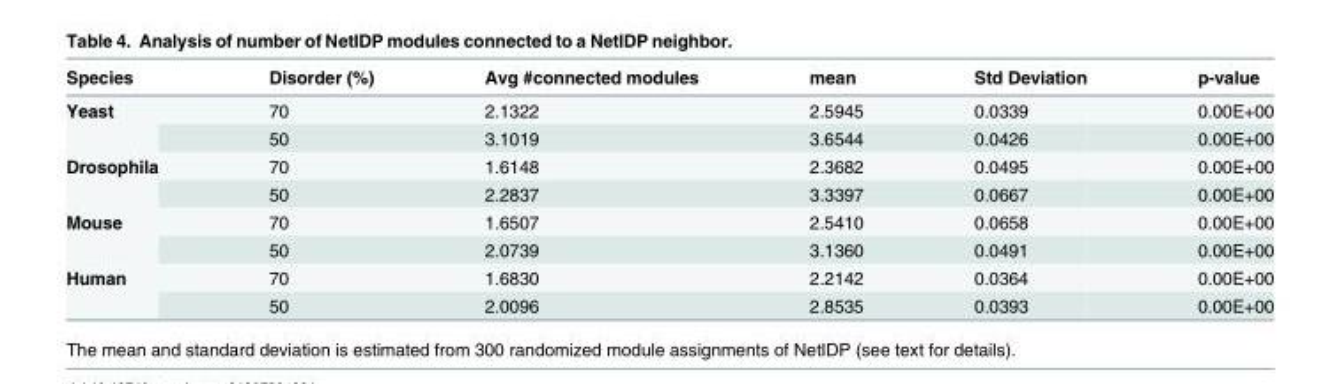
<table><thead><tr><td>Species</td><td>Disorder (%)</td><td>Avg #connected modules</td><td>mean</td><td>Std Deviation</td><td>p-value</td></tr></thead><tbody><tr><td rowspan="2">Yeast</td><td>70</td><td>2.1322</td><td>2.5945</td><td>0.0339</td><td>0.00E+00</td></tr><tr><td>50</td><td>3.1019</td><td>3.6544</td><td>0.0426</td><td>0.00E+00</td></tr><tr><td rowspan="2">Drosophila</td><td>70</td><td>1.6148</td><td>2.3682</td><td>0.0495</td><td>0.00E+00</td></tr><tr><td>50</td><td>2.2837</td><td>3.3397</td><td>0.0667</td><td>0.00E+00</td></tr><tr><td rowspan="2">Mouse</td><td>70</td><td>1.6507</td><td>2.5410</td><td>0.0658</td><td>0.00E+00</td></tr><tr><td>50</td><td>2.0739</td><td>3.1360</td><td>0.0491</td><td>0.00E+00</td></tr><tr><td rowspan="2">Human</td><td>70</td><td>1.6830</td><td>2.2142</td><td>0.0364</td><td>0.00E+00</td></tr><tr><td>50</td><td>2.0096</td><td>2.8535</td><td>0.0393</td><td>0.00E+00</td></tr></tbody></table>